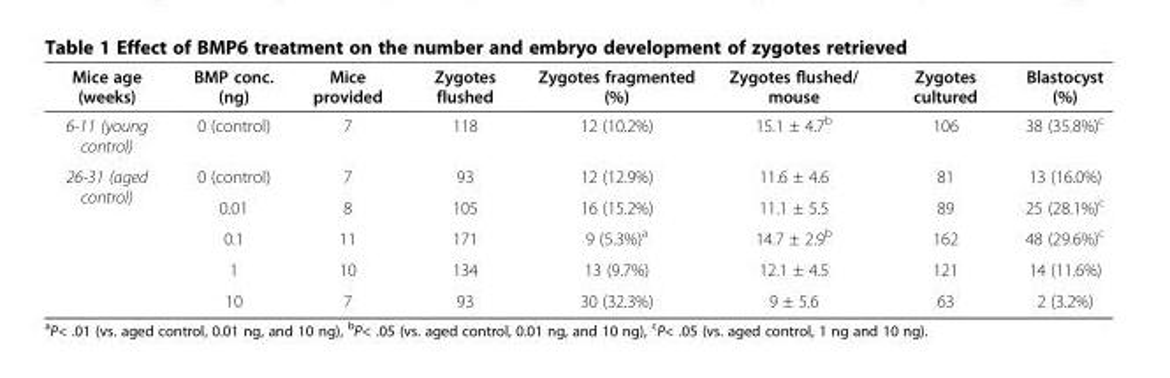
<table><thead><tr><td>Mice age (weeks)</td><td>BMP conc. (ng)</td><td>Mice provided</td><td>Zygotes flushed</td><td>Zygotes fragmented (%)</td><td>Zygotes flushed/ mouse</td><td>Zygotes cultured</td><td>Blastocyst (%)</td></tr></thead><tbody><tr><td>6-11 (young control)</td><td>0 (control)</td><td>7</td><td>118</td><td>12 (10.2%)</td><td>15.1 ± 4.7<sup>b</sup></td><td>106</td><td>38 (35.8%)<sup>c</sup></td></tr><tr><td rowspan="5">26-31 (aged control)</td><td>0 (control)</td><td>7</td><td>93</td><td>12 (12.9%)</td><td>11.6 ± 4.6</td><td>81</td><td>13 (16.0%)</td></tr><tr><td>0.01</td><td>8</td><td>105</td><td>16 (15.2%)</td><td>11.1 ± 5.5</td><td>89</td><td>25 (28.1%)<sup>c</sup></td></tr><tr><td>0.1</td><td>11</td><td>171</td><td>9 (5.3%)<sup>a</sup></td><td>14.7 ± 2.9<sup>b</sup></td><td>162</td><td>48 (29.6%)<sup>c</sup></td></tr><tr><td>1</td><td>10</td><td>134</td><td>13 (9.7%)</td><td>12.1 ± 4.5</td><td>121</td><td>14 (11.6%)</td></tr><tr><td>10</td><td>7</td><td>93</td><td>30 (32.3%)</td><td>9 ± 5.6</td><td>63</td><td>2 (3.2%)</td></tr></tbody></table>